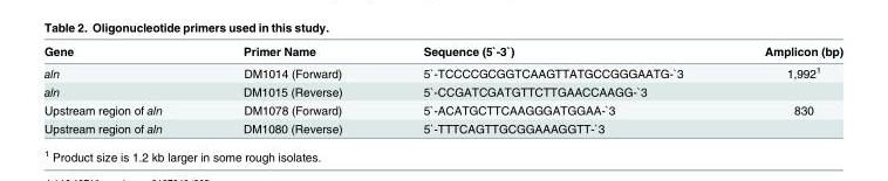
<table><thead><tr><td>Gene</td><td>Primer Name</td><td>Sequence (5`-3`)</td><td>Amplicon (bp)</td></tr></thead><tbody><tr><td>aln</td><td>DM1014 (Forward)</td><td>5`-TCCCCGCGGTCAAGTTATGCCGGGAATG-`3</td><td>1,992<sup>1</sup></td></tr><tr><td>aln</td><td>DM1015 (Reverse)</td><td>5`-CCGATCGATGTTCTTGAACCAAGG-`3</td><td></td></tr><tr><td>Upstream region of aln</td><td>DM1078 (Forward)</td><td>5`-ACATGCTTCAAGGGATGGAA-`3</td><td>830</td></tr><tr><td>Upstream region of aln</td><td>DM1080 (Reverse)</td><td>5`-TTTCAGTTGCGGAAAGGTT-`3</td><td></td></tr></tbody></table>